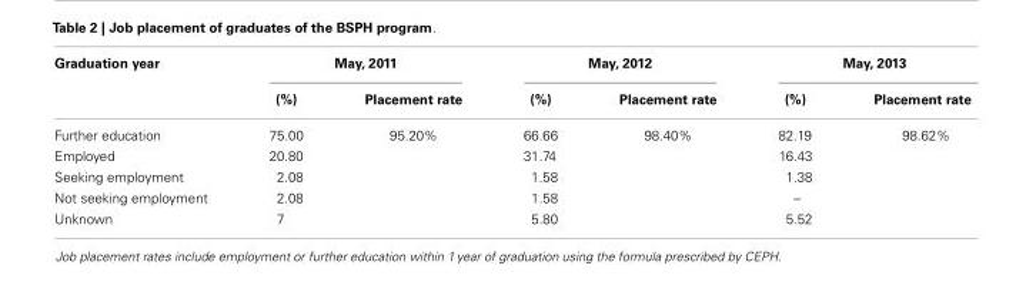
<table><thead><tr><td rowspan="2">Graduation year</td><td colspan="2">May, 2011</td><td colspan="2">May, 2012</td><td colspan="2">May, 2013</td></tr><tr><td>(%)</td><td>Placement rate</td><td>(%)</td><td>Placement rate</td><td>(%)</td><td>Placement rate</td></tr></thead><tbody><tr><td>Further education</td><td>75.00</td><td>95.20%</td><td>66.66</td><td>98.40%</td><td>82.19</td><td>98.62%</td></tr><tr><td>Employed</td><td>20.80</td><td></td><td>31.74</td><td></td><td>16.43</td><td></td></tr><tr><td>Seeking employment</td><td>2.08</td><td></td><td>1.58</td><td></td><td>1.38</td><td></td></tr><tr><td>Not seeking employment</td><td>2.08</td><td></td><td>1.58</td><td></td><td>–</td><td></td></tr><tr><td>Unknown</td><td>7</td><td></td><td>5.80</td><td></td><td>5.52</td><td></td></tr></tbody></table>